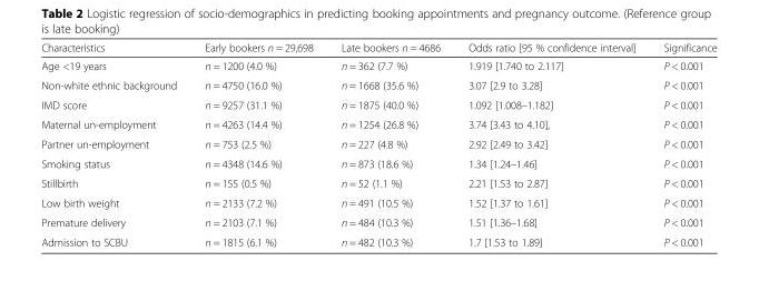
<table><thead><tr><td>Characteristics</td><td>Early bookers n = 29,698</td><td>Late bookers n = 4686</td><td>Odds ratio [95 % confidence interval]</td><td>Significance</td></tr></thead><tbody><tr><td>Age &lt;19 years</td><td>n = 1200 (4.0 %)</td><td>n = 362 (7.7 %)</td><td>1.919 [1.740 to 2.117]</td><td>P &lt; 0.001</td></tr><tr><td>Non-white ethnic background</td><td>n = 4750 (16.0 %)</td><td>n = 1668 (35.6 %)</td><td>3.07 [2.9 to 3.28]</td><td>P &lt; 0.001</td></tr><tr><td>IMD score</td><td>n = 9257 (31.1 %)</td><td>n = 1875 (40.0 %)</td><td>1.092 [1.008–1.182]</td><td>P &lt; 0.001</td></tr><tr><td>Maternal un-employment</td><td>n = 4263 (14.4 %)</td><td>n = 1254 (26.8 %)</td><td>3.74 [3.43 to 4.10],</td><td>P &lt; 0.001</td></tr><tr><td>Partner un-employment</td><td>n = 753 (2.5 %)</td><td>n = 227 (4.8 %)</td><td>2.92 [2.49 to 3.42]</td><td>P &lt; 0.001</td></tr><tr><td>Smoking status</td><td>n = 4348 (14.6 %)</td><td>n = 873 (18.6 %)</td><td>1.34 [1.24–1.46]</td><td>P &lt; 0.001</td></tr><tr><td>Stillbirth</td><td>n = 155 (0.5 %)</td><td>n = 52 (1.1 %)</td><td>2.21 [1.53 to 2.87]</td><td>P &lt; 0.001</td></tr><tr><td>Low birth weight</td><td>n = 2133 (7.2 %)</td><td>n = 491 (10.5 %)</td><td>1.52 [1.37 to 1.61]</td><td>P &lt; 0.001</td></tr><tr><td>Premature delivery</td><td>n = 2103 (7.1 %)</td><td>n = 484 (10.3 %)</td><td>1.51 [1.36–1.68]</td><td>P &lt; 0.001</td></tr><tr><td>Admission to SCBU</td><td>n = 1815 (6.1 %)</td><td>n = 482 (10.3 %)</td><td>1.7 [1.53 to 1.89]</td><td>P &lt; 0.001</td></tr></tbody></table>